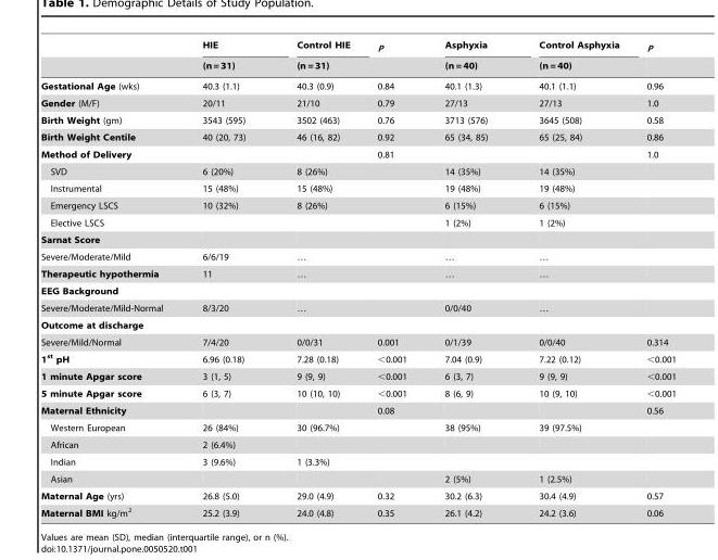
<table><thead><tr><td rowspan="2"></td><td rowspan="2">HIE (n = 31)</td><td rowspan="2">Control HIE (n = 31)</td><td rowspan="2">P</td><td rowspan="2">Asphyxia (n = 40)</td><td rowspan="2">Control Asphyxia (n = 40)</td><td rowspan="2">P</td></tr><tr></tr></thead><tbody><tr><td>Gestational Age (wks)</td><td>40.3 (1.1)</td><td>40.3 (0.9)</td><td>0.84</td><td>40.1 (1.3)</td><td>40.1 (1.1)</td><td>0.96</td></tr><tr><td>Gender (M/F)</td><td>20/11</td><td>21/10</td><td>0.79</td><td>27/13</td><td>27/13</td><td>1.0</td></tr><tr><td>Birth Weight (gm)</td><td>3543 (595)</td><td>3502 (463)</td><td>0.76</td><td>3713 (576)</td><td>3645 (508)</td><td>0.58</td></tr><tr><td>Birth Weight Centile</td><td>40 (20, 73)</td><td>46 (16, 82)</td><td>0.92</td><td>65 (34, 85)</td><td>65 (25, 84)</td><td>0.86</td></tr><tr><td>Method of Delivery</td><td></td><td></td><td>0.81</td><td></td><td></td><td>1.0</td></tr><tr><td>SVD</td><td>6 (20%)</td><td>8 (26%)</td><td></td><td>14 (35%)</td><td>14 (35%)</td><td></td></tr><tr><td>Instrumental</td><td>15 (48%)</td><td>15 (48%)</td><td></td><td>19 (48%)</td><td>19 (48%)</td><td></td></tr><tr><td>Emergency LSCS</td><td>10 (32%)</td><td>8 (26%)</td><td></td><td>6 (15%)</td><td>6 (15%)</td><td></td></tr><tr><td>Elective LSCS</td><td></td><td></td><td></td><td>1 (2%)</td><td>1 (2%)</td><td></td></tr><tr><td colspan="7">Sarnat Score</td></tr><tr><td>Severe/Moderate/Mild</td><td>6/6/19</td><td>…</td><td></td><td>…</td><td>…</td><td></td></tr><tr><td>Therapeutic hypothermia</td><td>11</td><td>…</td><td></td><td>…</td><td>…</td><td></td></tr><tr><td colspan="7">EEG Background</td></tr><tr><td>Severe/Moderate/Mild-Normal</td><td>8/3/20</td><td>…</td><td></td><td>0/0/40</td><td>…</td><td></td></tr><tr><td colspan="7">Outcome at discharge</td></tr><tr><td>Severe/Mild/Normal</td><td>7/4/20</td><td>0/0/31</td><td>0.001</td><td>0/1/39</td><td>0/0/40</td><td>0.314</td></tr><tr><td>1<sup>st</sup> pH</td><td>6.96 (0.18)</td><td>7.28 (0.18)</td><td>&lt;0.001</td><td>7.04 (0.9)</td><td>7.22 (0.12)</td><td>&lt;0.001</td></tr><tr><td>1 minute Apgar score</td><td>3 (1, 5)</td><td>9 (9, 9)</td><td>&lt;0.001</td><td>6 (3, 7)</td><td>9 (9, 9)</td><td>&lt;0.001</td></tr><tr><td>5 minute Apgar score</td><td>6 (3, 7)</td><td>10 (10, 10)</td><td>&lt;0.001</td><td>8 (6, 9)</td><td>10 (9, 10)</td><td>&lt;0.001</td></tr><tr><td>Maternal Ethnicity</td><td></td><td></td><td>0.08</td><td></td><td></td><td>0.56</td></tr><tr><td>Western European</td><td>26 (84%)</td><td>30 (96.7%)</td><td></td><td>38 (95%)</td><td>39 (97.5%)</td><td></td></tr><tr><td>African</td><td>2 (6.4%)</td><td></td><td></td><td></td><td></td><td></td></tr><tr><td>Indian</td><td>3 (9.6%)</td><td>1 (3.3%)</td><td></td><td></td><td></td><td></td></tr><tr><td>Asian</td><td></td><td></td><td></td><td>2 (5%)</td><td>1 (2.5%)</td><td></td></tr><tr><td>Maternal Age (yrs)</td><td>26.8 (5.0)</td><td>29.0 (4.9)</td><td>0.32</td><td>30.2 (6.3)</td><td>30.4 (4.9)</td><td>0.57</td></tr><tr><td>Maternal BMI kg/m<sup>2</sup></td><td>25.2 (3.9)</td><td>24.0 (4.8)</td><td>0.35</td><td>26.1 (4.2)</td><td>24.2 (3.6)</td><td>0.06</td></tr></tbody></table>